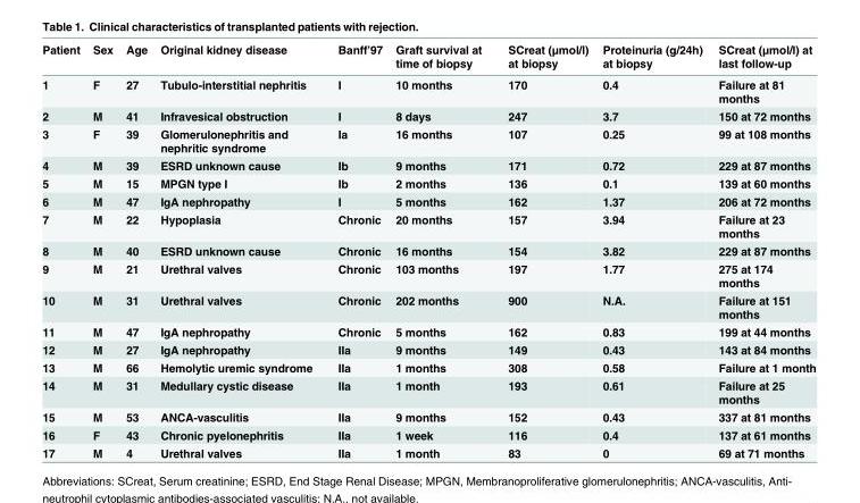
<table><thead><tr><td>Patient</td><td>Sex</td><td>Age</td><td>Original kidney disease</td><td>Banff’97</td><td>Graft survival at time of biopsy</td><td>SCreat (μmol/l) at biopsy</td><td>Proteinuria (g/24h) at biopsy</td><td>SCreat (μmol/l) at last follow-up</td></tr></thead><tbody><tr><td>1</td><td>F</td><td>27</td><td>Tubulo-interstitial nephritis</td><td>I</td><td>10 months</td><td>170</td><td>0.4</td><td>Failure at 81 months</td></tr><tr><td>2</td><td>M</td><td>41</td><td>Infravesical obstruction</td><td>I</td><td>8 days</td><td>247</td><td>3.7</td><td>150 at 72 months</td></tr><tr><td>3</td><td>F</td><td>39</td><td>Glomerulonephritis and nephritic syndrome</td><td>Ia</td><td>16 months</td><td>107</td><td>0.25</td><td>99 at 108 months</td></tr><tr><td>4</td><td>M</td><td>39</td><td>ESRD unknown cause</td><td>Ib</td><td>9 months</td><td>171</td><td>0.72</td><td>229 at 87 months</td></tr><tr><td>5</td><td>M</td><td>15</td><td>MPGN type I</td><td>Ib</td><td>2 months</td><td>136</td><td>0.1</td><td>139 at 60 months</td></tr><tr><td>6</td><td>M</td><td>47</td><td>IgA nephropathy</td><td>I</td><td>5 months</td><td>162</td><td>1.37</td><td>206 at 72 months</td></tr><tr><td>7</td><td>M</td><td>22</td><td>Hypoplasia</td><td>Chronic</td><td>20 months</td><td>157</td><td>3.94</td><td>Failure at 23 months</td></tr><tr><td>8</td><td>M</td><td>40</td><td>ESRD unknown cause</td><td>Chronic</td><td>16 months</td><td>154</td><td>3.82</td><td>229 at 87 months</td></tr><tr><td>9</td><td>M</td><td>21</td><td>Urethral valves</td><td>Chronic</td><td>103 months</td><td>197</td><td>1.77</td><td>275 at 174 months</td></tr><tr><td>10</td><td>M</td><td>31</td><td>Urethral valves</td><td>Chronic</td><td>202 months</td><td>900</td><td>N.A.</td><td>Failure at 151 months</td></tr><tr><td>11</td><td>M</td><td>47</td><td>IgA nephropathy</td><td>Chronic</td><td>5 months</td><td>162</td><td>0.83</td><td>199 at 44 months</td></tr><tr><td>12</td><td>M</td><td>27</td><td>IgA nephropathy</td><td>IIa</td><td>9 months</td><td>149</td><td>0.43</td><td>143 at 84 months</td></tr><tr><td>13</td><td>M</td><td>66</td><td>Hemolytic uremic syndrome</td><td>IIa</td><td>1 months</td><td>308</td><td>0.58</td><td>Failure at 1 month</td></tr><tr><td>14</td><td>M</td><td>31</td><td>Medullary cystic disease</td><td>IIa</td><td>1 month</td><td>193</td><td>0.61</td><td>Failure at 25 months</td></tr><tr><td>15</td><td>M</td><td>53</td><td>ANCA-vasculitis</td><td>IIa</td><td>9 months</td><td>152</td><td>0.43</td><td>337 at 81 months</td></tr><tr><td>16</td><td>F</td><td>43</td><td>Chronic pyelonephritis</td><td>IIa</td><td>1 week</td><td>116</td><td>0.4</td><td>137 at 61 months</td></tr><tr><td>17</td><td>M</td><td>4</td><td>Urethral valves</td><td>IIa</td><td>1 month</td><td>83</td><td>0</td><td>69 at 71 months</td></tr></tbody></table>